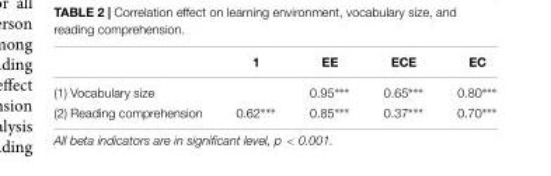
<table><thead><tr><td></td><td>1</td><td>EE</td><td>ECE</td><td>EC</td></tr></thead><tbody><tr><td>(1) Vocabulary size</td><td></td><td>0.95∗∗∗</td><td>0.65∗∗∗</td><td>0.80∗∗∗</td></tr><tr><td>(2) Reading comprehension</td><td>0.62∗∗∗</td><td>0.85∗∗∗</td><td>0.37∗∗∗</td><td>0.70∗∗∗</td></tr></tbody></table>